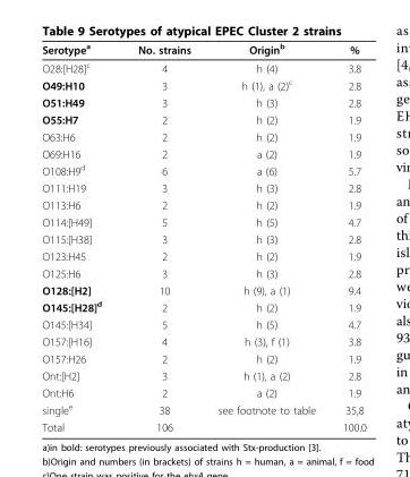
<table><thead><tr><td>Serotype<sup>a</sup></td><td>No. strains</td><td>Origin<sup>b</sup></td><td>%</td></tr></thead><tbody><tr><td>O28:[H28]<sup>c</sup></td><td>4</td><td>h (4)</td><td>3.8</td></tr><tr><td>O49:H10</td><td>3</td><td>h (1), a (2)<sup>c</sup></td><td>2.8</td></tr><tr><td>O51:H49</td><td>3</td><td>h (3)</td><td>2.8</td></tr><tr><td>O55:H7</td><td>2</td><td>h (2)</td><td>1.9</td></tr><tr><td>O63:H6</td><td>2</td><td>h (2)</td><td>1.9</td></tr><tr><td>O69:H16</td><td>2</td><td>a (2)</td><td>1.9</td></tr><tr><td>O108:H9<sup>d</sup></td><td>6</td><td>a (6)</td><td>5.7</td></tr><tr><td>O111:H19</td><td>3</td><td>h (3)</td><td>2.8</td></tr><tr><td>O113:H6</td><td>2</td><td>h (2)</td><td>1.9</td></tr><tr><td>O114:[H49]</td><td>5</td><td>h (5)</td><td>4.7</td></tr><tr><td>O115:[H38]</td><td>3</td><td>h (3)</td><td>2.8</td></tr><tr><td>O123:H45</td><td>2</td><td>h (2)</td><td>1.9</td></tr><tr><td>O125:H6</td><td>3</td><td>h (3)</td><td>2.8</td></tr><tr><td>O128:[H2]</td><td>10</td><td>h (9), a (1)</td><td>9.4</td></tr><tr><td>O145:[H28]<sup>d</sup></td><td>2</td><td>h (2)</td><td>1.9</td></tr><tr><td>O145:[H34]</td><td>5</td><td>h (5)</td><td>4.7</td></tr><tr><td>O157:[H16]</td><td>4</td><td>h (3), f (1)</td><td>3.8</td></tr><tr><td>O157:H26</td><td>2</td><td>h (2)</td><td>1.9</td></tr><tr><td>Ont:[H2]</td><td>3</td><td>h (1), a (2)</td><td>2.8</td></tr><tr><td>Ont:H6</td><td>2</td><td>a (2)</td><td>1.9</td></tr><tr><td>single<sup>e</sup></td><td>38</td><td>see footnote to table</td><td>35,8</td></tr><tr><td>Total</td><td>106</td><td></td><td>100.0</td></tr></tbody></table>